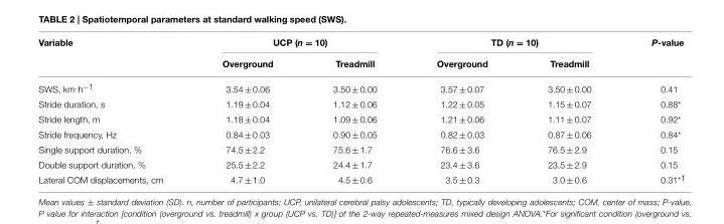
<table><thead><tr><td rowspan="2">Variable</td><td colspan="2">UCP (n = 10)</td><td colspan="2">TD (n = 10)</td><td rowspan="2">P-value</td></tr><tr><td>Overground</td><td>Treadmill</td><td>Overground</td><td>Treadmill</td></tr></thead><tbody><tr><td>SWS, km<sup>.</sup>h<sup>−1</sup></td><td>3.54 ± 0.06</td><td>3.50 ± 0.00</td><td>3.57 ± 0.07</td><td>3.50 ± 0.00</td><td>0.41</td></tr><tr><td>Stride duration, s</td><td>1.19 ± 0.04</td><td>1.12 ± 0.06</td><td>1.22 ± 0.05</td><td>1.15 ± 0.07</td><td>0.88*</td></tr><tr><td>Stride length, m</td><td>1.18 ± 0.04</td><td>1.09 ± 0.06</td><td>1.21 ± 0.06</td><td>1.11 ± 0.07</td><td>0.92*</td></tr><tr><td>Stride frequency, Hz</td><td>0.84 ± 0.03</td><td>0.90 ± 0.05</td><td>0.82 ± 0.03</td><td>0.87 ± 0.06</td><td>0.84*</td></tr><tr><td>Single support duration, %</td><td>74.5 ± 2.2</td><td>75.6 ± 1.7</td><td>76.6 ± 3.6</td><td>76.5 ± 2.9</td><td>0.15</td></tr><tr><td>Double support duration, %</td><td>25.5 ± 2.2</td><td>24.4 ± 1.7</td><td>23.4 ± 3.6</td><td>23.5 ± 2.9</td><td>0.15</td></tr><tr><td>Lateral COM displacements, cm</td><td>4.7 ± 1.0</td><td>4.5 ± 0.6</td><td>3.5 ± 0.3</td><td>3.0 ± 0.6</td><td>0.31<sup>*†</sup></td></tr></tbody></table>